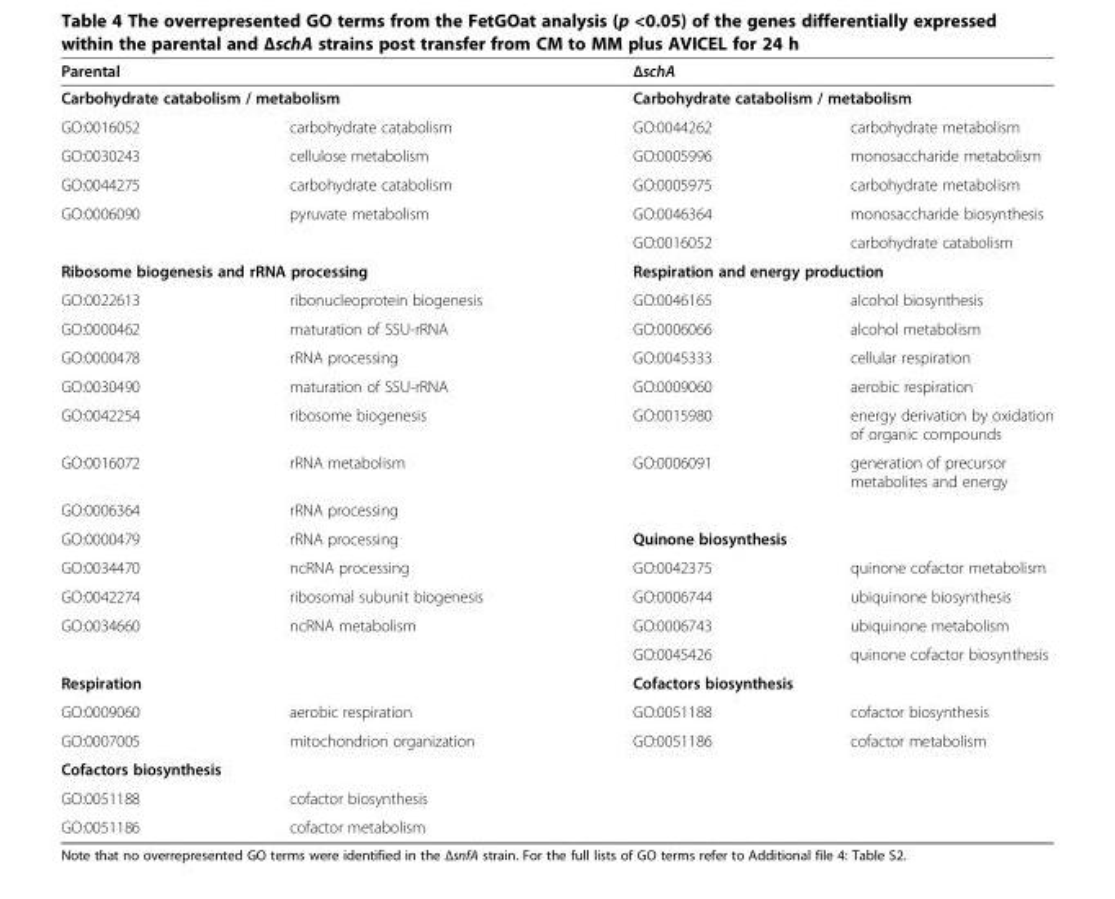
<table><thead><tr><td rowspan="2" colspan="2">Parental Carbohydrate catabolism / metabolism</td><td rowspan="2" colspan="2">ΔschA Carbohydrate catabolism / metabolism</td></tr><tr></tr><tr><td>GO:0016052</td><td>carbohydrate catabolism</td><td>GO:0044262</td><td>carbohydrate metabolism</td></tr></thead><tbody><tr><td>GO:0030243</td><td>cellulose metabolism</td><td>GO:0005996</td><td>monosaccharide metabolism</td></tr><tr><td>GO:0044275</td><td>carbohydrate catabolism</td><td>GO:0005975</td><td>carbohydrate metabolism</td></tr><tr><td rowspan="2">GO:0006090</td><td>pyruvate metabolism</td><td>GO:0046364</td><td>monosaccharide biosynthesis</td></tr><tr><td></td><td>GO:0016052</td><td>carbohydrate catabolism</td></tr><tr><td colspan="2">Ribosome biogenesis and rRNA processing</td><td colspan="2">Respiration and energy production</td></tr><tr><td>GO:0022613</td><td>ribonucleoprotein biogenesis</td><td>GO:0046165</td><td>alcohol biosynthesis</td></tr><tr><td>GO:0000462</td><td>maturation of SSU-rRNA</td><td>GO:0006066</td><td>alcohol metabolism</td></tr><tr><td>GO:0000478</td><td>rRNA processing</td><td>GO:0045333</td><td>cellular respiration</td></tr><tr><td>GO:0030490</td><td>maturation of SSU-rRNA</td><td>GO:0009060</td><td>aerobic respiration</td></tr><tr><td>GO:0042254</td><td>ribosome biogenesis</td><td>GO:0015980</td><td>energy derivation by oxidation of organic compounds</td></tr><tr><td>GO:0016072</td><td>rRNA metabolism</td><td>GO:0006091</td><td>generation of precursor metabolites and energy</td></tr><tr><td>GO:0006364</td><td>rRNA processing</td><td colspan="2"></td></tr><tr><td>GO:0000479</td><td>rRNA processing</td><td colspan="2">Quinone biosynthesis</td></tr><tr><td>GO:0034470</td><td>ncRNA processing</td><td>GO:0042375</td><td>quinone cofactor metabolism</td></tr><tr><td>GO:0042274</td><td>ribosomal subunit biogenesis</td><td>GO:0006744</td><td>ubiquinone biosynthesis</td></tr><tr><td rowspan="2">GO:0034660</td><td>ncRNA metabolism</td><td>GO:0006743</td><td>ubiquinone metabolism</td></tr><tr><td></td><td>GO:0045426</td><td>quinone cofactor biosynthesis</td></tr><tr><td colspan="2">Respiration</td><td colspan="2">Cofactors biosynthesis</td></tr><tr><td>GO:0009060</td><td>aerobic respiration</td><td>GO:0051188</td><td>cofactor biosynthesis</td></tr><tr><td>GO:0007005</td><td>mitochondrion organization</td><td>GO:0051186</td><td>cofactor metabolism</td></tr><tr><td colspan="4">Cofactors biosynthesis</td></tr><tr><td>GO:0051188</td><td>cofactor biosynthesis</td><td></td><td></td></tr><tr><td>GO:0051186</td><td>cofactor metabolism</td><td></td><td></td></tr></tbody></table>